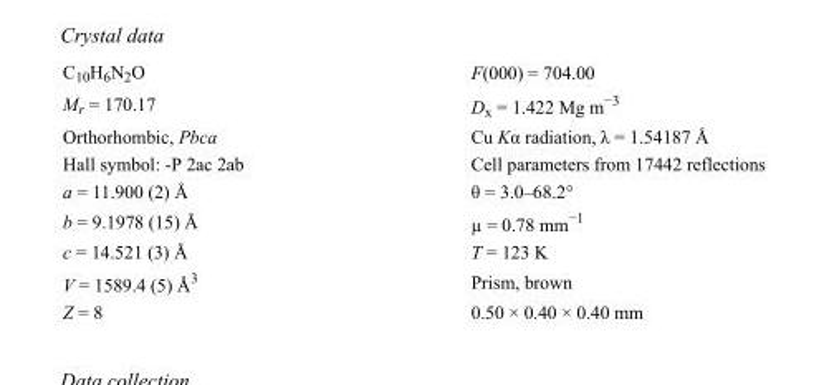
<table><tbody><tr><td>C<sub>10</sub>H<sub>6</sub>N<sub>2</sub>O</td><td>F(000) = 704.00</td></tr><tr><td>M<sub>r</sub> = 170.17</td><td>D<sub>x</sub> = 1.422 Mg m<sup>−3</sup></td></tr><tr><td>Orthorhombic, Pbca</td><td>Cu Kα radiation, λ = 1.54187 Å</td></tr><tr><td>Hall symbol: -P 2ac 2ab</td><td>Cell parameters from 17442 reflections</td></tr><tr><td>a = 11.900 (2) Å</td><td>θ = 3.0–68.2°</td></tr><tr><td>b = 9.1978 (15) Å</td><td>µ = 0.78 mm<sup>−1</sup></td></tr><tr><td>c = 14.521 (3) Å</td><td>T = 123 K</td></tr><tr><td>V = 1589.4 (5) Å<sup>3</sup></td><td>Prism, brown</td></tr><tr><td>Z = 8</td><td>0.50 × 0.40 × 0.40 mm</td></tr></tbody></table>